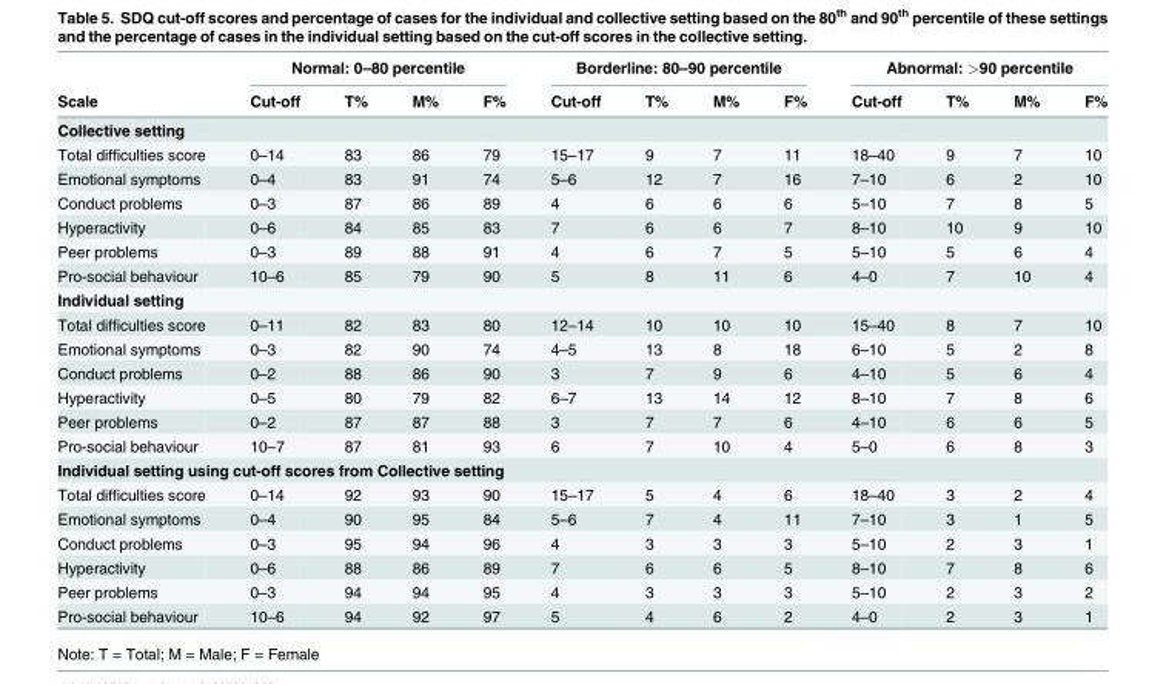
<table><thead><tr><td rowspan="2">Scale</td><td colspan="4">Normal: 0–80 percentile</td><td colspan="4">Borderline: 80–90 percentile</td><td colspan="4">Abnormal: &gt;90 percentile</td></tr><tr><td>Cut-off</td><td>T%</td><td>M%</td><td>F%</td><td>Cut-off</td><td>T%</td><td>M%</td><td>F%</td><td>Cut-off</td><td>T%</td><td>M%</td><td>F%</td></tr></thead><tbody><tr><td colspan="13">Collective setting</td></tr><tr><td>Total difficulties score</td><td>0–14</td><td>83</td><td>86</td><td>79</td><td>15–17</td><td>9</td><td>7</td><td>11</td><td>18–40</td><td>9</td><td>7</td><td>10</td></tr><tr><td>Emotional symptoms</td><td>0–4</td><td>83</td><td>91</td><td>74</td><td>5–6</td><td>12</td><td>7</td><td>16</td><td>7–10</td><td>6</td><td>2</td><td>10</td></tr><tr><td>Conduct problems</td><td>0–3</td><td>87</td><td>86</td><td>89</td><td>4</td><td>6</td><td>6</td><td>6</td><td>5–10</td><td>7</td><td>8</td><td>5</td></tr><tr><td>Hyperactivity</td><td>0–6</td><td>84</td><td>85</td><td>83</td><td>7</td><td>6</td><td>6</td><td>7</td><td>8–10</td><td>10</td><td>9</td><td>10</td></tr><tr><td>Peer problems</td><td>0–3</td><td>89</td><td>88</td><td>91</td><td>4</td><td>6</td><td>7</td><td>5</td><td>5–10</td><td>5</td><td>6</td><td>4</td></tr><tr><td>Pro-social behaviour</td><td>10–6</td><td>85</td><td>79</td><td>90</td><td>5</td><td>8</td><td>11</td><td>6</td><td>4–0</td><td>7</td><td>10</td><td>4</td></tr><tr><td colspan="13">Individual setting</td></tr><tr><td>Total difficulties score</td><td>0–11</td><td>82</td><td>83</td><td>80</td><td>12–14</td><td>10</td><td>10</td><td>10</td><td>15–40</td><td>8</td><td>7</td><td>10</td></tr><tr><td>Emotional symptoms</td><td>0–3</td><td>82</td><td>90</td><td>74</td><td>4–5</td><td>13</td><td>8</td><td>18</td><td>6–10</td><td>5</td><td>2</td><td>8</td></tr><tr><td>Conduct problems</td><td>0–2</td><td>88</td><td>86</td><td>90</td><td>3</td><td>7</td><td>9</td><td>6</td><td>4–10</td><td>5</td><td>6</td><td>4</td></tr><tr><td>Hyperactivity</td><td>0–5</td><td>80</td><td>79</td><td>82</td><td>6–7</td><td>13</td><td>14</td><td>12</td><td>8–10</td><td>7</td><td>8</td><td>6</td></tr><tr><td>Peer problems</td><td>0–2</td><td>87</td><td>87</td><td>88</td><td>3</td><td>7</td><td>7</td><td>6</td><td>4–10</td><td>6</td><td>6</td><td>5</td></tr><tr><td>Pro-social behaviour</td><td>10–7</td><td>87</td><td>81</td><td>93</td><td>6</td><td>7</td><td>10</td><td>4</td><td>5–0</td><td>6</td><td>8</td><td>3</td></tr><tr><td colspan="13">Individual setting using cut-off scores from Collective setting</td></tr><tr><td>Total difficulties score</td><td>0–14</td><td>92</td><td>93</td><td>90</td><td>15–17</td><td>5</td><td>4</td><td>6</td><td>18–40</td><td>3</td><td>2</td><td>4</td></tr><tr><td>Emotional symptoms</td><td>0–4</td><td>90</td><td>95</td><td>84</td><td>5–6</td><td>7</td><td>4</td><td>11</td><td>7–10</td><td>3</td><td>1</td><td>5</td></tr><tr><td>Conduct problems</td><td>0–3</td><td>95</td><td>94</td><td>96</td><td>4</td><td>3</td><td>3</td><td>3</td><td>5–10</td><td>2</td><td>3</td><td>1</td></tr><tr><td>Hyperactivity</td><td>0–6</td><td>88</td><td>86</td><td>89</td><td>7</td><td>6</td><td>6</td><td>5</td><td>8–10</td><td>7</td><td>8</td><td>6</td></tr><tr><td>Peer problems</td><td>0–3</td><td>94</td><td>94</td><td>95</td><td>4</td><td>3</td><td>3</td><td>3</td><td>5–10</td><td>2</td><td>3</td><td>2</td></tr><tr><td>Pro-social behaviour</td><td>10–6</td><td>94</td><td>92</td><td>97</td><td>5</td><td>4</td><td>6</td><td>2</td><td>4–0</td><td>2</td><td>3</td><td>1</td></tr></tbody></table>